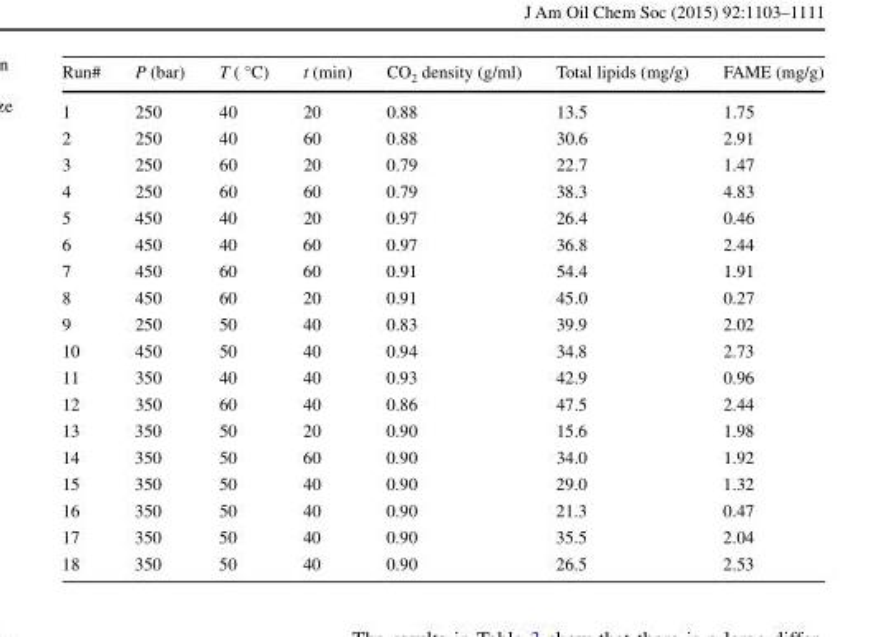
<table><thead><tr><td>Run#</td><td>P (bar)</td><td>T ( °C)</td><td>t (min)</td><td>CO<sub>2</sub> density (g/ml)</td><td>Total lipids (mg/g)</td><td>FAME (mg/g)</td></tr></thead><tbody><tr><td>1</td><td>250</td><td>40</td><td>20</td><td>0.88</td><td>13.5</td><td>1.75</td></tr><tr><td>2</td><td>250</td><td>40</td><td>60</td><td>0.88</td><td>30.6</td><td>2.91</td></tr><tr><td>3</td><td>250</td><td>60</td><td>20</td><td>0.79</td><td>22.7</td><td>1.47</td></tr><tr><td>4</td><td>250</td><td>60</td><td>60</td><td>0.79</td><td>38.3</td><td>4.83</td></tr><tr><td>5</td><td>450</td><td>40</td><td>20</td><td>0.97</td><td>26.4</td><td>0.46</td></tr><tr><td>6</td><td>450</td><td>40</td><td>60</td><td>0.97</td><td>36.8</td><td>2.44</td></tr><tr><td>7</td><td>450</td><td>60</td><td>60</td><td>0.91</td><td>54.4</td><td>1.91</td></tr><tr><td>8</td><td>450</td><td>60</td><td>20</td><td>0.91</td><td>45.0</td><td>0.27</td></tr><tr><td>9</td><td>250</td><td>50</td><td>40</td><td>0.83</td><td>39.9</td><td>2.02</td></tr><tr><td>10</td><td>450</td><td>50</td><td>40</td><td>0.94</td><td>34.8</td><td>2.73</td></tr><tr><td>11</td><td>350</td><td>40</td><td>40</td><td>0.93</td><td>42.9</td><td>0.96</td></tr><tr><td>12</td><td>350</td><td>60</td><td>40</td><td>0.86</td><td>47.5</td><td>2.44</td></tr><tr><td>13</td><td>350</td><td>50</td><td>20</td><td>0.90</td><td>15.6</td><td>1.98</td></tr><tr><td>14</td><td>350</td><td>50</td><td>60</td><td>0.90</td><td>34.0</td><td>1.92</td></tr><tr><td>15</td><td>350</td><td>50</td><td>40</td><td>0.90</td><td>29.0</td><td>1.32</td></tr><tr><td>16</td><td>350</td><td>50</td><td>40</td><td>0.90</td><td>21.3</td><td>0.47</td></tr><tr><td>17</td><td>350</td><td>50</td><td>40</td><td>0.90</td><td>35.5</td><td>2.04</td></tr><tr><td>18</td><td>350</td><td>50</td><td>40</td><td>0.90</td><td>26.5</td><td>2.53</td></tr></tbody></table>